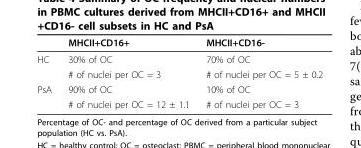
<table><thead><tr><td></td><td>MHCII+CD16+</td><td>MHCII+CD16-</td></tr></thead><tbody><tr><td rowspan="2">HC</td><td>30% of OC</td><td>70% of OC</td></tr><tr><td># of nuclei per OC = 3</td><td># of nuclei per OC = 5 ± 0.2</td></tr><tr><td rowspan="2">PsA</td><td>90% of OC</td><td>10% of OC</td></tr><tr><td># of nuclei per OC = 12 ± 1.1</td><td># of nuclei per OC = 3</td></tr></tbody></table>